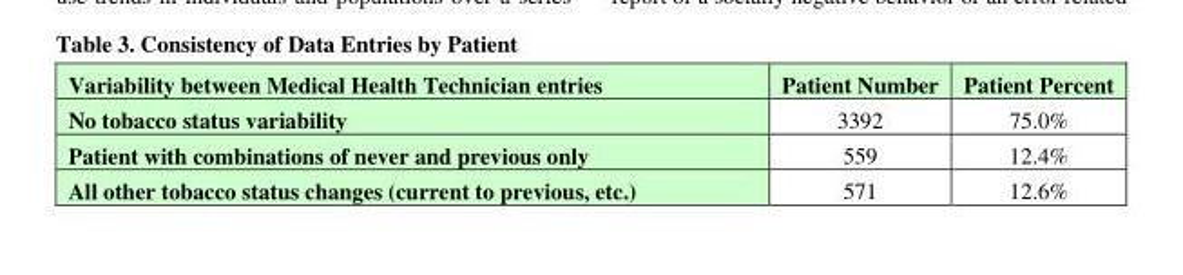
<table><thead><tr><td>Variability between Medical Health Technician entries</td><td>Patient Number</td><td>Patient Percent</td></tr></thead><tbody><tr><td>No tobacco status variability</td><td>3392</td><td>75.0%</td></tr><tr><td>Patient with combinations of never and previous only</td><td>559</td><td>12.4%</td></tr><tr><td>All other tobacco status changes (current to previous, etc.)</td><td>571</td><td>12.6%</td></tr></tbody></table>